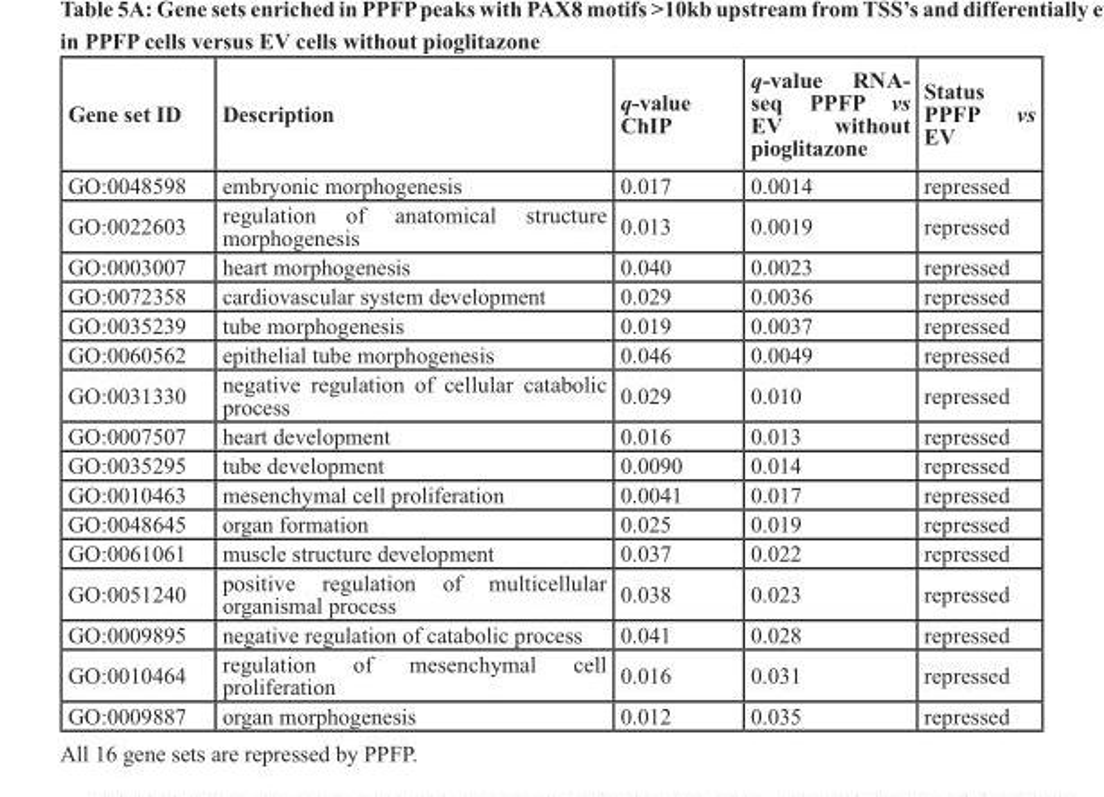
<table><thead><tr><td>Gene set ID</td><td>Description</td><td>q-value ChIP</td><td>q-value RNA- seq PPFP vs EV without pioglitazone</td><td>Status PPFP vs EV</td></tr></thead><tbody><tr><td>GO:0048598</td><td>embryonic morphogenesis</td><td>0.017</td><td>0.0014</td><td>repressed</td></tr><tr><td>GO:0022603</td><td>regulation of anatomical structure morphogenesis</td><td>0.013</td><td>0.0019</td><td>repressed</td></tr><tr><td>GO:0003007</td><td>heart morphogenesis</td><td>0.040</td><td>0.0023</td><td>repressed</td></tr><tr><td>GO:0072358</td><td>cardiovascular system development</td><td>0.029</td><td>0.0036</td><td>repressed</td></tr><tr><td>GO:0035239</td><td>tube morphogenesis</td><td>0.019</td><td>0.0037</td><td>repressed</td></tr><tr><td>GO:0060562</td><td>epithelial tube morphogenesis</td><td>0.046</td><td>0.0049</td><td>repressed</td></tr><tr><td>GO:0031330</td><td>negative regulation of cellular catabolic process</td><td>0.029</td><td>0.010</td><td>repressed</td></tr><tr><td>GO:0007507</td><td>heart development</td><td>0.016</td><td>0.013</td><td>repressed</td></tr><tr><td>GO:0035295</td><td>tube development</td><td>0.0090</td><td>0.014</td><td>repressed</td></tr><tr><td>GO:0010463</td><td>mesenchymal cell proliferation</td><td>0.0041</td><td>0.017</td><td>repressed</td></tr><tr><td>GO:0048645</td><td>organ formation</td><td>0.025</td><td>0.019</td><td>repressed</td></tr><tr><td>GO:0061061</td><td>muscle structure development</td><td>0.037</td><td>0.022</td><td>repressed</td></tr><tr><td>GO:0051240</td><td>positive regulation of multicellular organismal process</td><td>0.038</td><td>0.023</td><td>repressed</td></tr><tr><td>GO:0009895</td><td>negative regulation of catabolic process</td><td>0.041</td><td>0.028</td><td>repressed</td></tr><tr><td>GO:0010464</td><td>regulation of mesenchymal cell proliferation</td><td>0.016</td><td>0.031</td><td>repressed</td></tr><tr><td>GO:0009887</td><td>organ morphogenesis</td><td>0.012</td><td>0.035</td><td>repressed</td></tr></tbody></table>